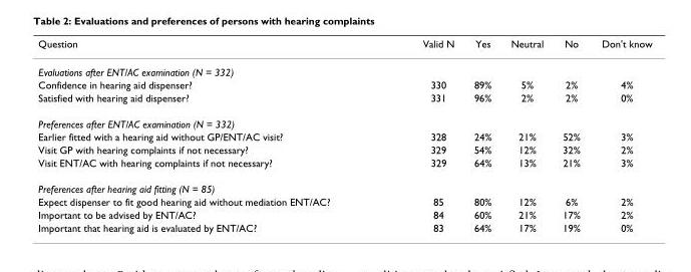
<table><thead><tr><td>Question</td><td>Valid N</td><td>Yes</td><td>Neutral</td><td>No</td><td>Don&#x27;t know</td></tr></thead><tbody><tr><td colspan="6">Evaluations after ENT/AC examination (N = 332)</td></tr><tr><td>Confidence in hearing aid dispenser?</td><td>330</td><td>89%</td><td>5%</td><td>2%</td><td>4%</td></tr><tr><td>Satisfied with hearing aid dispenser?</td><td>331</td><td>96%</td><td>2%</td><td>2%</td><td>0%</td></tr><tr><td colspan="6">Preferences after ENT/AC examination (N = 332)</td></tr><tr><td>Earlier fitted with a hearing aid without GP/ENT/AC visit?</td><td>328</td><td>24%</td><td>21%</td><td>52%</td><td>3%</td></tr><tr><td>Visit GP with hearing complaints if not necessary?</td><td>329</td><td>54%</td><td>12%</td><td>32%</td><td>2%</td></tr><tr><td>Visit ENT/AC with hearing complaints if not necessary?</td><td>329</td><td>64%</td><td>13%</td><td>21%</td><td>3%</td></tr><tr><td colspan="6">Preferences after hearing aid fitting (N = 85)</td></tr><tr><td>Expect dispenser to fit good hearing aid without mediation ENT/AC?</td><td>85</td><td>80%</td><td>12%</td><td>6%</td><td>2%</td></tr><tr><td>Important to be advised by ENT/AC?</td><td>84</td><td>60%</td><td>21%</td><td>17%</td><td>2%</td></tr><tr><td>Important that hearing aid is evaluated by ENT/AC?</td><td>83</td><td>64%</td><td>17%</td><td>19%</td><td>0%</td></tr></tbody></table>